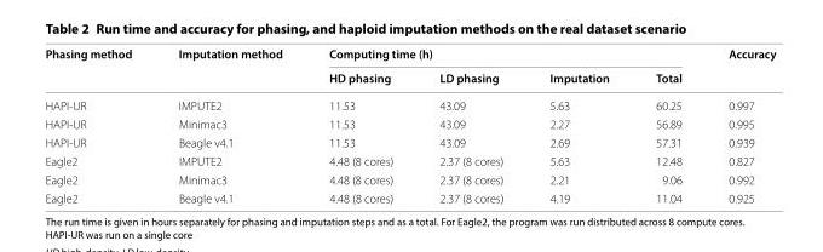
<table><thead><tr><td rowspan="2">Phasing method</td><td rowspan="2">Imputation method</td><td colspan="4">Computing time (h)</td><td rowspan="2">Accuracy</td></tr><tr><td>HD phasing</td><td>LD phasing</td><td>Imputation</td><td>Total</td></tr></thead><tbody><tr><td>HAPI‑UR</td><td>IMPUTE2</td><td>11.53</td><td>43.09</td><td>5.63</td><td>60.25</td><td>0.997</td></tr><tr><td>HAPI‑UR</td><td>Minimac3</td><td>11.53</td><td>43.09</td><td>2.27</td><td>56.89</td><td>0.995</td></tr><tr><td>HAPI‑UR</td><td>Beagle v4.1</td><td>11.53</td><td>43.09</td><td>2.69</td><td>57.31</td><td>0.939</td></tr><tr><td>Eagle2</td><td>IMPUTE2</td><td>4.48 (8 cores)</td><td>2.37 (8 cores)</td><td>5.63</td><td>12.48</td><td>0.827</td></tr><tr><td>Eagle2</td><td>Minimac3</td><td>4.48 (8 cores)</td><td>2.37 (8 cores)</td><td>2.21</td><td>9.06</td><td>0.992</td></tr><tr><td>Eagle2</td><td>Beagle v4.1</td><td>4.48 (8 cores)</td><td>2.37 (8 cores)</td><td>4.19</td><td>11.04</td><td>0.925</td></tr></tbody></table>